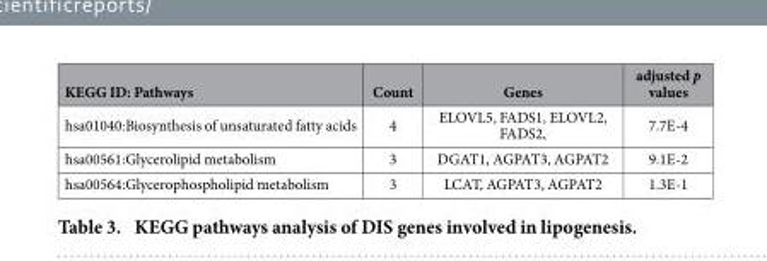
<table><thead><tr><td>KEGG ID: Pathways</td><td>Count</td><td>Genes</td><td>adjusted p values</td></tr></thead><tbody><tr><td>hsa01040:Biosynthesis of unsaturated fatty acids</td><td>4</td><td>ELOVL5, FADS1, ELOVL2, FADS2,</td><td>7.7E-4</td></tr><tr><td>hsa00561:Glycerolipid metabolism</td><td>3</td><td>DGAT1, AGPAT3, AGPAT2</td><td>9.1E-2</td></tr><tr><td>hsa00564:Glycerophospholipid metabolism</td><td>3</td><td>LCAT, AGPAT3, AGPAT2</td><td>1.3E-1</td></tr></tbody></table>